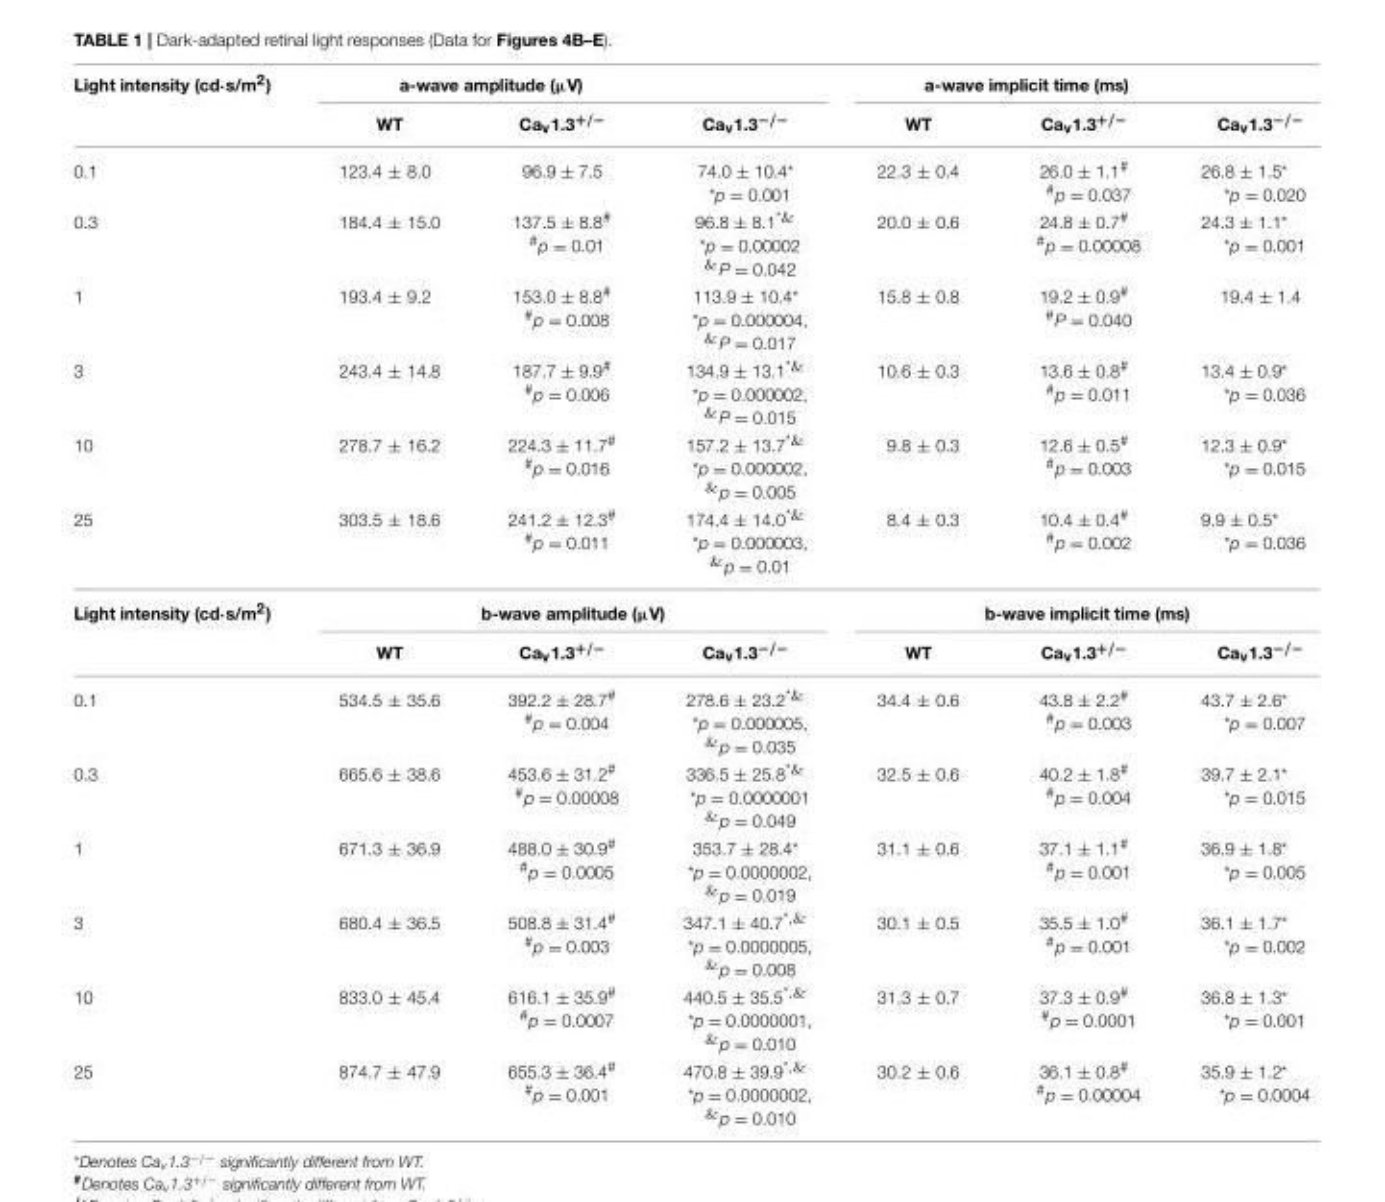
<table><thead><tr><td rowspan="2">Light intensity (cd·s/m<sup>2</sup>)</td><td colspan="3">a-wave amplitude (µV)</td><td colspan="3">a-wave implicit time (ms)</td></tr><tr><td>WT</td><td>Ca<sub>v</sub>1.3<sup>+/−</sup></td><td>Ca<sub>v</sub>1.3<sup>−/−</sup></td><td>WT</td><td>Ca<sub>v</sub>1.3<sup>+/−</sup></td><td>Ca<sub>v</sub>1.3<sup>−/−</sup></td></tr></thead><tbody><tr><td>0.1</td><td>123.4 ± 8.0</td><td>96.9 ± 7.5</td><td>74.0 ± 10.4* *p = 0.001</td><td>22.3 ± 0.4</td><td>26.0 ± 1.1<sup># #</sup>p = 0.037</td><td>26.8 ± 1.5* *p = 0.020</td></tr><tr><td>0.3</td><td>184.4 ± 15.0</td><td>137.5 ± 8.8<sup># #</sup>p = 0.01</td><td>96.8 ± 8.1<sup>*&amp; *</sup>p = 0.00002 <sup>&amp;</sup>P = 0.042</td><td>20.0 ± 0.6</td><td>24.8 ± 0.7<sup># #</sup>p = 0.00008</td><td>24.3 ± 1.1* *p = 0.001</td></tr><tr><td>1</td><td>193.4 ± 9.2</td><td>153.0 ± 8.8<sup># #</sup>p = 0.008</td><td>113.9 ± 10.4* *p = 0.000004, <sup>&amp;</sup>P = 0.017</td><td>15.8 ± 0.8</td><td>19.2 ± 0.9<sup># #</sup>P = 0.040</td><td>19.4 ± 1.4</td></tr><tr><td>3</td><td>243.4 ± 14.8</td><td>187.7 ± 9.9<sup># #</sup>p = 0.006</td><td>134.9 ± 13.1<sup>*&amp; *</sup>p = 0.000002, <sup>&amp;</sup>P = 0.015</td><td>10.6 ± 0.3</td><td>13.6 ± 0.8<sup># #</sup>p = 0.011</td><td>13.4 ± 0.9* *p = 0.036</td></tr><tr><td>10</td><td>278.7 ± 16.2</td><td>224.3 ± 11.7<sup># #</sup>p = 0.016</td><td>157.2 ± 13.7<sup>*&amp; *</sup>p = 0.000002, <sup>&amp;</sup>p = 0.005</td><td>9.8 ± 0.3</td><td>12.6 ± 0.5<sup># #</sup>p = 0.003</td><td>12.3 ± 0.9* *p = 0.015</td></tr><tr><td>25</td><td>303.5 ± 18.6</td><td>241.2 ± 12.3<sup># #</sup>p = 0.011</td><td>174.4 ± 14.0<sup>*&amp; *</sup>p = 0.000003, <sup>&amp;</sup>p = 0.01</td><td>8.4 ± 0.3</td><td>10.4 ± 0.4<sup># #</sup>p = 0.002</td><td>9.9 ± 0.5* *p = 0.036</td></tr><tr><td rowspan="2">Light intensity (cd·s/m<sup>2</sup>)</td><td colspan="3">b-wave amplitude (µV)</td><td colspan="3">b-wave implicit time (ms)</td></tr><tr><td>WT</td><td>Ca<sub>v</sub>1.3<sup>+/−</sup></td><td>Ca<sub>v</sub>1.3<sup>−/−</sup></td><td>WT</td><td>Ca<sub>v</sub>1.3<sup>+/−</sup></td><td>Ca<sub>v</sub>1.3<sup>−/−</sup></td></tr><tr><td>0.1</td><td>534.5 ± 35.6</td><td>392.2 ± 28.7<sup># #</sup>p = 0.004</td><td>278.6 ± 23.2<sup>*&amp; *</sup>p = 0.000005, <sup>&amp;</sup>p = 0.035</td><td>34.4 ± 0.6</td><td>43.8 ± 2.2<sup># #</sup>p = 0.003</td><td>43.7 ± 2.6* *p = 0.007</td></tr><tr><td>0.3</td><td>665.6 ± 38.6</td><td>453.6 ± 31.2<sup># #</sup>p = 0.00008</td><td>336.5 ± 25.8<sup>*&amp; *</sup>p = 0.0000001 <sup>&amp;</sup>p = 0.049</td><td>32.5 ± 0.6</td><td>40.2 ± 1.8<sup># #</sup>p = 0.004</td><td>39.7 ± 2.1* *p = 0.015</td></tr><tr><td>1</td><td>671.3 ± 36.9</td><td>488.0 ± 30.9<sup># #</sup>p = 0.0005</td><td>353.7 ± 28.4* *p = 0.0000002, <sup>&amp;</sup>p = 0.019</td><td>31.1 ± 0.6</td><td>37.1 ± 1.1<sup># #</sup>p = 0.001</td><td>36.9 ± 1.8* *p = 0.005</td></tr><tr><td>3</td><td>680.4 ± 36.5</td><td>508.8 ± 31.4<sup># #</sup>p = 0.003</td><td>347.1 ± 40.7<sup>*,&amp; *</sup>p = 0.0000005, <sup>&amp;</sup>p = 0.008</td><td>30.1 ± 0.5</td><td>35.5 ± 1.0<sup># #</sup>p = 0.001</td><td>36.1 ± 1.7* *p = 0.002</td></tr><tr><td>10</td><td>833.0 ± 45.4</td><td>616.1 ± 35.9<sup># #</sup>p = 0.0007</td><td>440.5 ± 35.5<sup>*,&amp; *</sup>p = 0.0000001, <sup>&amp;</sup>p = 0.010</td><td>31.3 ± 0.7</td><td>37.3 ± 0.9<sup># #</sup>p = 0.0001</td><td>36.8 ± 1.3* *p = 0.001</td></tr><tr><td>25</td><td>874.7 ± 47.9</td><td>655.3 ± 36.4<sup># #</sup>p = 0.001</td><td>470.8 ± 39.9<sup>*,&amp; *</sup>p = 0.0000002, <sup>&amp;</sup>p = 0.010</td><td>30.2 ± 0.6</td><td>36.1 ± 0.8<sup># #</sup>p = 0.00004</td><td>35.9 ± 1.2* *p = 0.0004</td></tr></tbody></table>